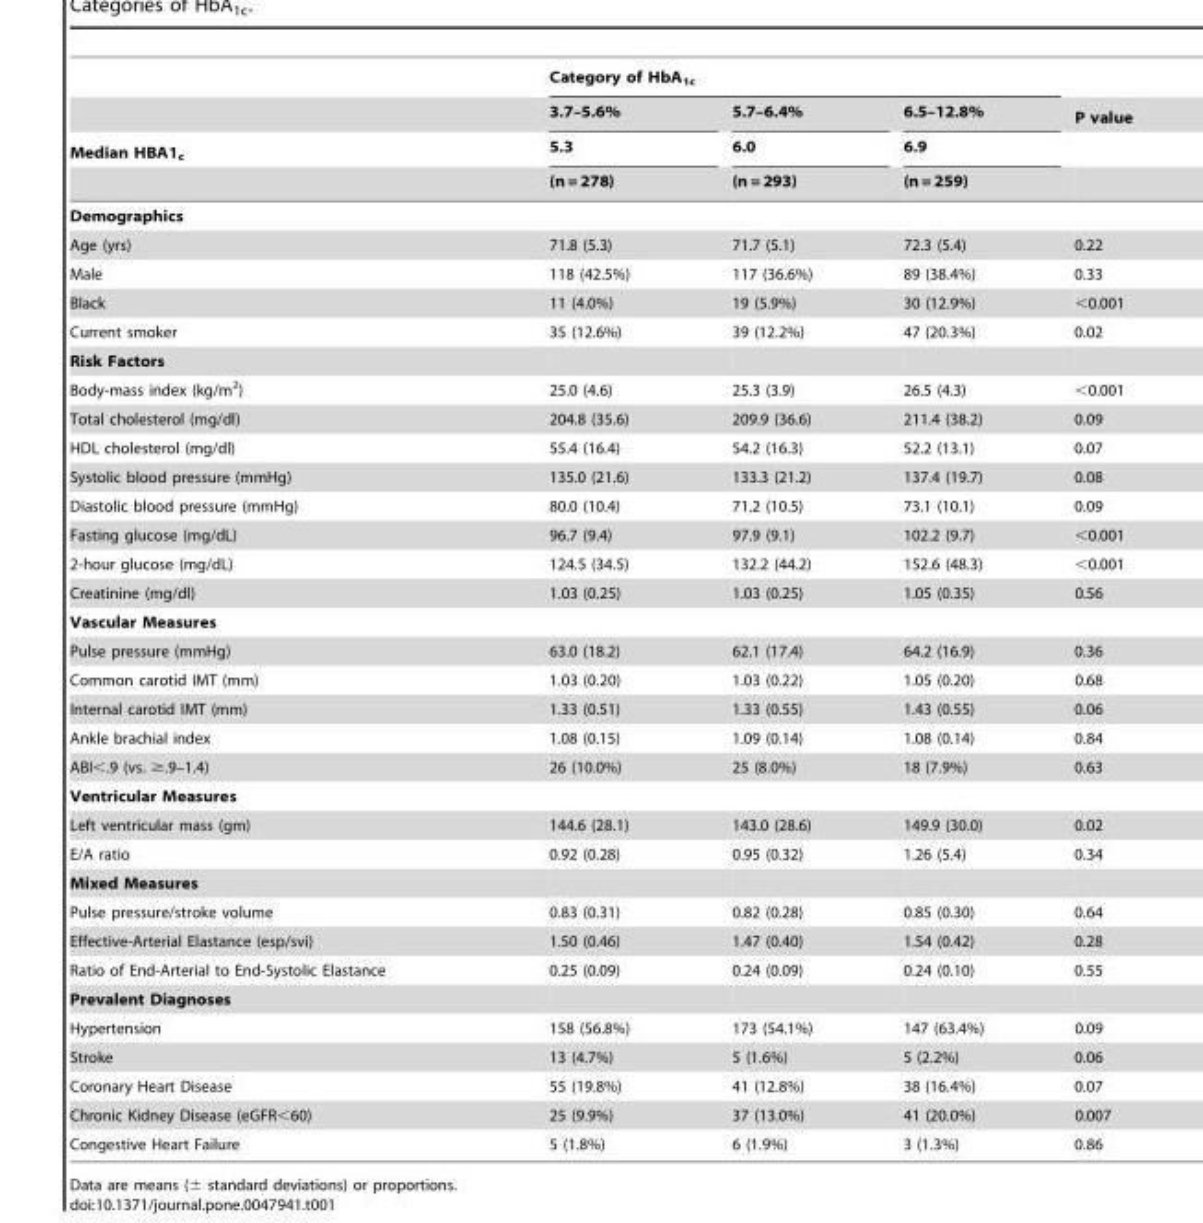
<table><thead><tr><td rowspan="4">Median HBA1<sub>c</sub></td><td colspan="3">Category of HbA<sub>1c</sub></td><td rowspan="4">P value</td></tr><tr><td rowspan="3">3.7–5.6% 5.3 (n = 278)</td><td rowspan="3">5.7–6.4% 6.0 (n = 293)</td><td rowspan="3">6.5–12.8% 6.9 (n = 259)</td></tr><tr></tr><tr></tr></thead><tbody><tr><td colspan="5">Demographics</td></tr><tr><td>Age (yrs)</td><td>71.8 (5.3)</td><td>71.7 (5.1)</td><td>72.3 (5.4)</td><td>0.22</td></tr><tr><td>Male</td><td>118 (42.5%)</td><td>117 (36.6%)</td><td>89 (38.4%)</td><td>0.33</td></tr><tr><td>Black</td><td>11 (4.0%)</td><td>19 (5.9%)</td><td>30 (12.9%)</td><td>&lt;0.001</td></tr><tr><td>Current smoker</td><td>35 (12.6%)</td><td>39 (12.2%)</td><td>47 (20.3%)</td><td>0.02</td></tr><tr><td colspan="5">Risk Factors</td></tr><tr><td>Body-mass index (kg/m<sup>2</sup>)</td><td>25.0 (4.6)</td><td>25.3 (3.9)</td><td>26.5 (4.3)</td><td>&lt;0.001</td></tr><tr><td>Total cholesterol (mg/dl)</td><td>204.8 (35.6)</td><td>209.9 (36.6)</td><td>211.4 (38.2)</td><td>0.09</td></tr><tr><td>HDL cholesterol (mg/dl)</td><td>55.4 (16.4)</td><td>54.2 (16.3)</td><td>52.2 (13.1)</td><td>0.07</td></tr><tr><td>Systolic blood pressure (mmHg)</td><td>135.0 (21.6)</td><td>133.3 (21.2)</td><td>137.4 (19.7)</td><td>0.08</td></tr><tr><td>Diastolic blood pressure (mmHg)</td><td>80.0 (10.4)</td><td>71.2 (10.5)</td><td>73.1 (10.1)</td><td>0.09</td></tr><tr><td>Fasting glucose (mg/dL)</td><td>96.7 (9.4)</td><td>97.9 (9.1)</td><td>102.2 (9.7)</td><td>&lt;0.001</td></tr><tr><td>2-hour glucose (mg/dL)</td><td>124.5 (34.5)</td><td>132.2 (44.2)</td><td>152.6 (48.3)</td><td>&lt;0.001</td></tr><tr><td>Creatinine (mg/dl)</td><td>1.03 (0.25)</td><td>1.03 (0.25)</td><td>1.05 (0.35)</td><td>0.56</td></tr><tr><td colspan="5">Vascular Measures</td></tr><tr><td>Pulse pressure (mmHg)</td><td>63.0 (18.2)</td><td>62.1 (17.4)</td><td>64.2 (16.9)</td><td>0.36</td></tr><tr><td>Common carotid IMT (mm)</td><td>1.03 (0.20)</td><td>1.03 (0.22)</td><td>1.05 (0.20)</td><td>0.68</td></tr><tr><td>Internal carotid IMT (mm)</td><td>1.33 (0.51)</td><td>1.33 (0.55)</td><td>1.43 (0.55)</td><td>0.06</td></tr><tr><td>Ankle brachial index</td><td>1.08 (0.15)</td><td>1.09 (0.14)</td><td>1.08 (0.14)</td><td>0.84</td></tr><tr><td>ABI&lt;.9 (vs. ≥.9–1.4)</td><td>26 (10.0%)</td><td>25 (8.0%)</td><td>18 (7.9%)</td><td>0.63</td></tr><tr><td colspan="5">Ventricular Measures</td></tr><tr><td>Left ventricular mass (gm)</td><td>144.6 (28.1)</td><td>143.0 (28.6)</td><td>149.9 (30.0)</td><td>0.02</td></tr><tr><td>E/A ratio</td><td>0.92 (0.28)</td><td>0.95 (0.32)</td><td>1.26 (5.4)</td><td>0.34</td></tr><tr><td colspan="5">Mixed Measures</td></tr><tr><td>Pulse pressure/stroke volume</td><td>0.83 (0.31)</td><td>0.82 (0.28)</td><td>0.85 (0.30)</td><td>0.64</td></tr><tr><td>Effective-Arterial Elastance (esp/svi)</td><td>1.50 (0.46)</td><td>1.47 (0.40)</td><td>1.54 (0.42)</td><td>0.28</td></tr><tr><td>Ratio of End-Arterial to End-Systolic Elastance</td><td>0.25 (0.09)</td><td>0.24 (0.09)</td><td>0.24 (0.10)</td><td>0.55</td></tr><tr><td colspan="5">Prevalent Diagnoses</td></tr><tr><td>Hypertension</td><td>158 (56.8%)</td><td>173 (54.1%)</td><td>147 (63.4%)</td><td>0.09</td></tr><tr><td>Stroke</td><td>13 (4.7%)</td><td>5 (1.6%)</td><td>5 (2.2%)</td><td>0.06</td></tr><tr><td>Coronary Heart Disease</td><td>55 (19.8%)</td><td>41 (12.8%)</td><td>38 (16.4%)</td><td>0.07</td></tr><tr><td>Chronic Kidney Disease (eGFR&lt;60)</td><td>25 (9.9%)</td><td>37 (13.0%)</td><td>41 (20.0%)</td><td>0.007</td></tr><tr><td>Congestive Heart Failure</td><td>5 (1.8%)</td><td>6 (1.9%)</td><td>3 (1.3%)</td><td>0.86</td></tr></tbody></table>